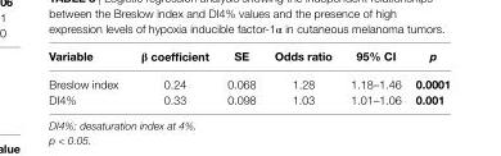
<table><thead><tr><td>Variable</td><td>β coefficient</td><td>se</td><td>Odds ratio</td><td>95% ci</td><td>p</td></tr></thead><tbody><tr><td>Breslow index</td><td>0.24</td><td>0.068</td><td>1.28</td><td>1.18–1.46</td><td>0.0001</td></tr><tr><td>DI4%</td><td>0.33</td><td>0.098</td><td>1.03</td><td>1.01–1.06</td><td>0.001</td></tr></tbody></table>